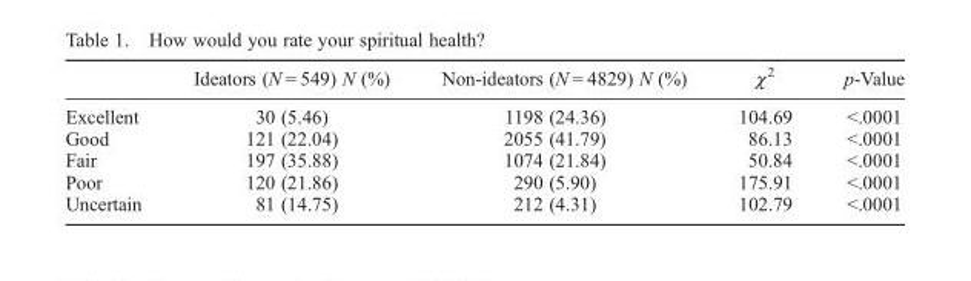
<table><thead><tr><td></td><td>Ideators (N = 549) N (%)</td><td>Non-ideators (N = 4829) N (%)</td><td>χ<sup>2</sup></td><td>p-Value</td></tr></thead><tbody><tr><td>Excellent</td><td>30 (5.46)</td><td>1198 (24.36)</td><td>104.69</td><td>&lt;.0001</td></tr><tr><td>Good</td><td>121 (22.04)</td><td>2055 (41.79)</td><td>86.13</td><td>&lt;.0001</td></tr><tr><td>Fair</td><td>197 (35.88)</td><td>1074 (21.84)</td><td>50.84</td><td>&lt;.0001</td></tr><tr><td>Poor</td><td>120 (21.86)</td><td>290 (5.90)</td><td>175.91</td><td>&lt;.0001</td></tr><tr><td>Uncertain</td><td>81 (14.75)</td><td>212 (4.31)</td><td>102.79</td><td>&lt;.0001</td></tr></tbody></table>